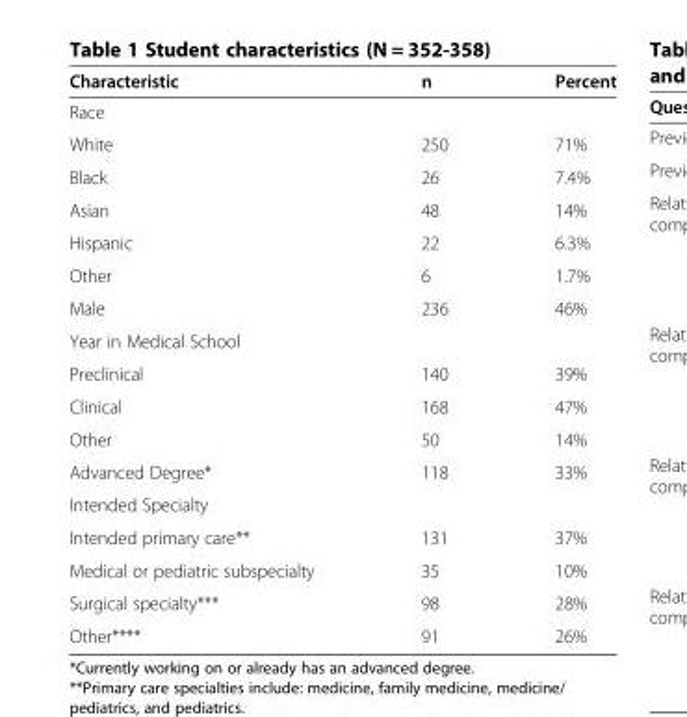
<table><thead><tr><td>Characteristic</td><td>n</td><td>Percent</td></tr></thead><tbody><tr><td colspan="3">Race</td></tr><tr><td>White</td><td>250</td><td>71%</td></tr><tr><td>Black</td><td>26</td><td>7.4%</td></tr><tr><td>Asian</td><td>48</td><td>14%</td></tr><tr><td>Hispanic</td><td>22</td><td>6.3%</td></tr><tr><td>Other</td><td>6</td><td>1.7%</td></tr><tr><td>Male</td><td>236</td><td>46%</td></tr><tr><td colspan="3">Year in Medical School</td></tr><tr><td>Preclinical</td><td>140</td><td>39%</td></tr><tr><td>Clinical</td><td>168</td><td>47%</td></tr><tr><td>Other</td><td>50</td><td>14%</td></tr><tr><td>Advanced Degree*</td><td>118</td><td>33%</td></tr><tr><td colspan="3">Intended Specialty</td></tr><tr><td>Intended primary care**</td><td>131</td><td>37%</td></tr><tr><td>Medical or pediatric subspecialty</td><td>35</td><td>10%</td></tr><tr><td>Surgical specialty***</td><td>98</td><td>28%</td></tr><tr><td>Other****</td><td>91</td><td>26%</td></tr></tbody></table>